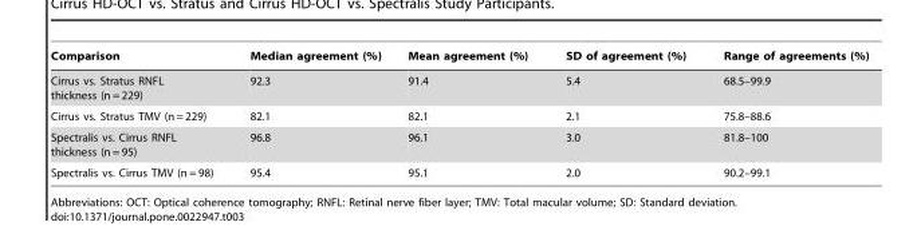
<table><thead><tr><td>Comparison</td><td>Median agreement (%)</td><td>Mean agreement (%)</td><td>SD of agreement (%)</td><td>Range of agreements (%)</td></tr></thead><tbody><tr><td>Cirrus vs. Stratus RNFL thickness (n = 229)</td><td>92.3</td><td>91.4</td><td>5.4</td><td>68.5–99.9</td></tr><tr><td>Cirrus vs. Stratus TMV (n = 229)</td><td>82.1</td><td>82.1</td><td>2.1</td><td>75.8–88.6</td></tr><tr><td>Spectralis vs. Cirrus RNFL thickness (n = 95)</td><td>96.8</td><td>96.1</td><td>3.0</td><td>81.8–100</td></tr><tr><td>Spectralis vs. Cirrus TMV (n = 98)</td><td>95.4</td><td>95.1</td><td>2.0</td><td>90.2–99.1</td></tr></tbody></table>